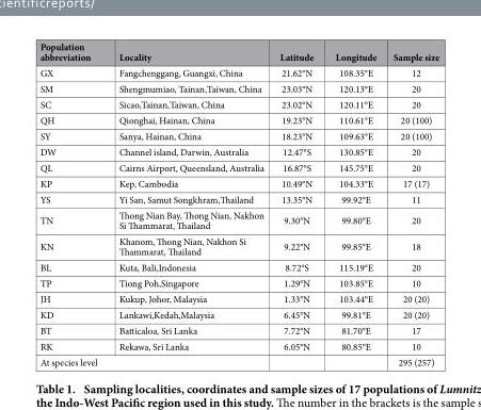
<table><thead><tr><td>Population abbreviation</td><td>Locality</td><td>Latitude</td><td>Longitude</td><td>Sample size</td></tr></thead><tbody><tr><td>GX</td><td>Fangchenggang, Guangxi, China</td><td>21.62°N</td><td>108.35°E</td><td>12</td></tr><tr><td>SM</td><td>Shengmumiao, Tainan,Taiwan, China</td><td>23.03°N</td><td>120.13°E</td><td>20</td></tr><tr><td>SC</td><td>Sicao,Tainan,Taiwan, China</td><td>23.02°N</td><td>120.11°E</td><td>20</td></tr><tr><td>QH</td><td>Qionghai, Hainan, China</td><td>19.23°N</td><td>110.61°E</td><td>20 (100)</td></tr><tr><td>SY</td><td>Sanya, Hainan, China</td><td>18.23°N</td><td>109.63°E</td><td>20 (100)</td></tr><tr><td>DW</td><td>Channel island, Darwin, Australia</td><td>12.47°S</td><td>130.85°E</td><td>20</td></tr><tr><td>QL</td><td>Cairns Airport, Queensland, Australia</td><td>16.87°S</td><td>145.75°E</td><td>20</td></tr><tr><td>KP</td><td>Kep, Cambodia</td><td>10.49°N</td><td>104.33°E</td><td>17 (17)</td></tr><tr><td>YS</td><td>Yi San, Samut Songkhram,Thailand</td><td>13.35°N</td><td>99.92°E</td><td>11</td></tr><tr><td>TN</td><td>Thong Nian Bay, Thong Nian, Nakhon Si Thammarat, Thailand</td><td>9.30°N</td><td>99.80°E</td><td>20</td></tr><tr><td>KN</td><td>Khanom, Thong Nian, Nakhon Si Thammarat, Thailand</td><td>9.22°N</td><td>99.85°E</td><td>18</td></tr><tr><td>BL</td><td>Kuta, Bali,Indonesia</td><td>8.72°S</td><td>115.19°E</td><td>20</td></tr><tr><td>TP</td><td>Tiong Poh,Singapore</td><td>1.29°N</td><td>103.85°E</td><td>10</td></tr><tr><td>JH</td><td>Kukup, Johor, Malaysia</td><td>1.33°N</td><td>103.44°E</td><td>20 (20)</td></tr><tr><td>KD</td><td>Lankawi,Kedah,Malaysia</td><td>6.45°N</td><td>99.81°E</td><td>20 (20)</td></tr><tr><td>BT</td><td>Batticaloa, Sri Lanka</td><td>7.72°N</td><td>81.70°E</td><td>17</td></tr><tr><td>RK</td><td>Rekawa, Sri Lanka</td><td>6.05°N</td><td>80.85°E</td><td>10</td></tr><tr><td colspan="2">At species level</td><td></td><td></td><td>295 (257)</td></tr></tbody></table>